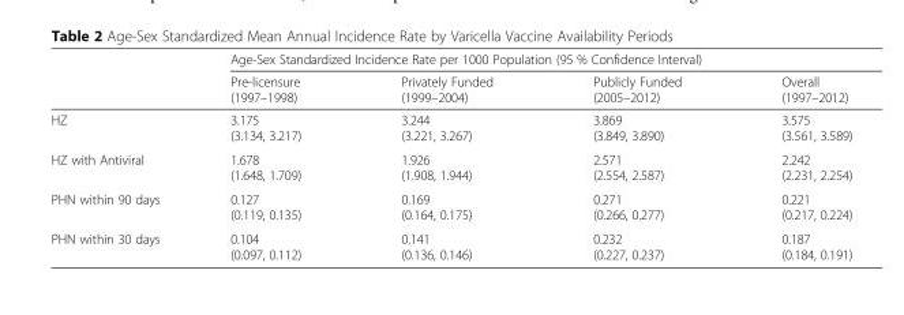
<table><thead><tr><td rowspan="2"></td><td colspan="4">Age-Sex Standardized Incidence Rate per 1000 Population (95 % Confidence Interval)</td></tr><tr><td>Pre-licensure (1997–1998)</td><td>Privately Funded (1999–2004)</td><td>Publicly Funded (2005–2012)</td><td>Overall (1997–2012)</td></tr></thead><tbody><tr><td>HZ</td><td>3.175 (3.134, 3.217)</td><td>3.244 (3.221, 3.267)</td><td>3.869 (3.849, 3.890)</td><td>3.575 (3.561, 3.589)</td></tr><tr><td>HZ with Antiviral</td><td>1.678 (1.648, 1.709)</td><td>1.926 (1.908, 1.944)</td><td>2.571 (2.554, 2.587)</td><td>2.242 (2.231, 2.254)</td></tr><tr><td>PHN within 90 days</td><td>0.127 (0.119, 0.135)</td><td>0.169 (0.164, 0.175)</td><td>0.271 (0.266, 0.277)</td><td>0.221 (0.217, 0.224)</td></tr><tr><td>PHN within 30 days</td><td>0.104 (0.097, 0.112)</td><td>0.141 (0.136, 0.146)</td><td>0.232 (0.227, 0.237)</td><td>0.187 (0.184, 0.191)</td></tr></tbody></table>